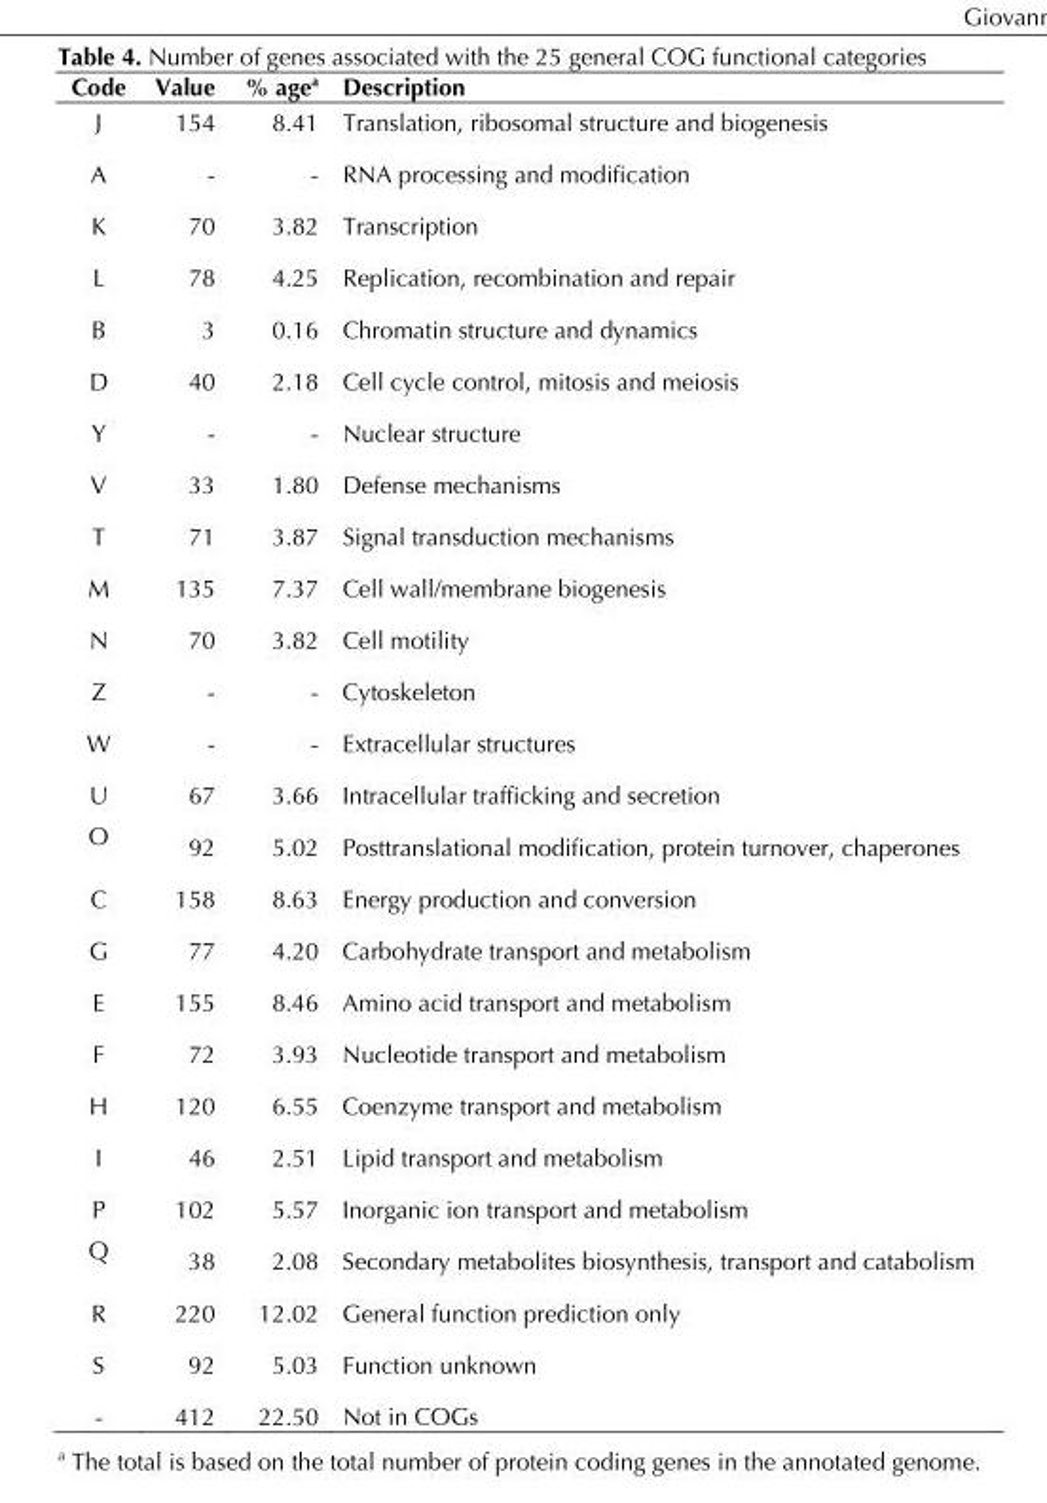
<table><thead><tr><td>Code</td><td>Value</td><td>% age<sup>a</sup></td><td>Description</td></tr></thead><tbody><tr><td>J</td><td>154</td><td>8.41</td><td>Translation, ribosomal structure and biogenesis</td></tr><tr><td>A</td><td>-</td><td>-</td><td>RNA processing and modification</td></tr><tr><td>K</td><td>70</td><td>3.82</td><td>Transcription</td></tr><tr><td>L</td><td>78</td><td>4.25</td><td>Replication, recombination and repair</td></tr><tr><td>B</td><td>3</td><td>0.16</td><td>Chromatin structure and dynamics</td></tr><tr><td>D</td><td>40</td><td>2.18</td><td>Cell cycle control, mitosis and meiosis</td></tr><tr><td>Y</td><td>-</td><td>-</td><td>Nuclear structure</td></tr><tr><td>V</td><td>33</td><td>1.80</td><td>Defense mechanisms</td></tr><tr><td>T</td><td>71</td><td>3.87</td><td>Signal transduction mechanisms</td></tr><tr><td>M</td><td>135</td><td>7.37</td><td>Cell wall/membrane biogenesis</td></tr><tr><td>N</td><td>70</td><td>3.82</td><td>Cell motility</td></tr><tr><td>Z</td><td>-</td><td>-</td><td>Cytoskeleton</td></tr><tr><td>W</td><td>-</td><td>-</td><td>Extracellular structures</td></tr><tr><td>U</td><td>67</td><td>3.66</td><td>Intracellular trafficking and secretion</td></tr><tr><td>O</td><td>92</td><td>5.02</td><td>Posttranslational modification, protein turnover, chaperones</td></tr><tr><td>C</td><td>158</td><td>8.63</td><td>Energy production and conversion</td></tr><tr><td>G</td><td>77</td><td>4.20</td><td>Carbohydrate transport and metabolism</td></tr><tr><td>E</td><td>155</td><td>8.46</td><td>Amino acid transport and metabolism</td></tr><tr><td>F</td><td>72</td><td>3.93</td><td>Nucleotide transport and metabolism</td></tr><tr><td>H</td><td>120</td><td>6.55</td><td>Coenzyme transport and metabolism</td></tr><tr><td>I</td><td>46</td><td>2.51</td><td>Lipid transport and metabolism</td></tr><tr><td>P</td><td>102</td><td>5.57</td><td>Inorganic ion transport and metabolism</td></tr><tr><td>Q</td><td>38</td><td>2.08</td><td>Secondary metabolites biosynthesis, transport and catabolism</td></tr><tr><td>R</td><td>220</td><td>12.02</td><td>General function prediction only</td></tr><tr><td>S</td><td>92</td><td>5.03</td><td>Function unknown</td></tr><tr><td>-</td><td>412</td><td>22.50</td><td>Not in COGs</td></tr></tbody></table>